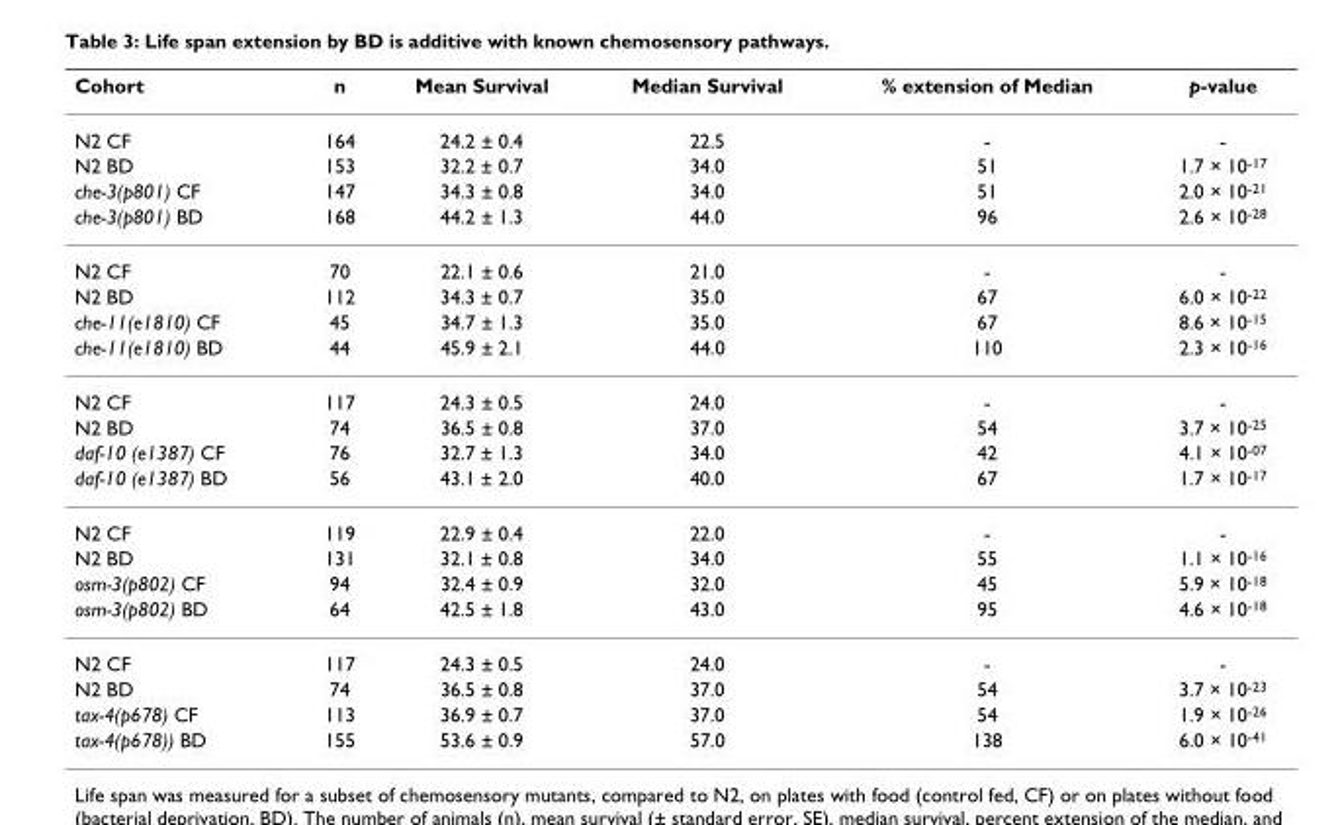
<table><thead><tr><td>Cohort</td><td>n</td><td>Mean Survival</td><td>Median Survival</td><td>% extension of Median</td><td>p-value</td></tr></thead><tbody><tr><td>N2 CF</td><td>164</td><td>24.2 ± 0.4</td><td>22.5</td><td>-</td><td>-</td></tr><tr><td>N2 BD</td><td>153</td><td>32.2 ± 0.7</td><td>34.0</td><td>51</td><td>1.7 × 10<sup>-17</sup></td></tr><tr><td>che-3(p801) CF</td><td>147</td><td>34.3 ± 0.8</td><td>34.0</td><td>51</td><td>2.0 × 10<sup>-21</sup></td></tr><tr><td>che-3(p801) BD</td><td>168</td><td>44.2 ± 1.3</td><td>44.0</td><td>96</td><td>2.6 × 10<sup>-28</sup></td></tr><tr><td>N2 CF</td><td>70</td><td>22.1 ± 0.6</td><td>21.0</td><td>-</td><td>-</td></tr><tr><td>N2 BD</td><td>112</td><td>34.3 ± 0.7</td><td>35.0</td><td>67</td><td>6.0 × 10<sup>-22</sup></td></tr><tr><td>che-11(e1810) CF</td><td>45</td><td>34.7 ± 1.3</td><td>35.0</td><td>67</td><td>8.6 × 10<sup>-15</sup></td></tr><tr><td>che-11(e1810) BD</td><td>44</td><td>45.9 ± 2.1</td><td>44.0</td><td>110</td><td>2.3 × 10<sup>-16</sup></td></tr><tr><td>N2 CF</td><td>117</td><td>24.3 ± 0.5</td><td>24.0</td><td>-</td><td>-</td></tr><tr><td>N2 BD</td><td>74</td><td>36.5 ± 0.8</td><td>37.0</td><td>54</td><td>3.7 × 10<sup>-25</sup></td></tr><tr><td>daf-10 (e1387) CF</td><td>76</td><td>32.7 ± 1.3</td><td>34.0</td><td>42</td><td>4.1 × 10<sup>-07</sup></td></tr><tr><td>daf-10 (e1387) BD</td><td>56</td><td>43.1 ± 2.0</td><td>40.0</td><td>67</td><td>1.7 × 10<sup>-17</sup></td></tr><tr><td>N2 CF</td><td>119</td><td>22.9 ± 0.4</td><td>22.0</td><td>-</td><td>-</td></tr><tr><td>N2 BD</td><td>131</td><td>32.1 ± 0.8</td><td>34.0</td><td>55</td><td>1.1 × 10<sup>-16</sup></td></tr><tr><td>osm-3(p802) CF</td><td>94</td><td>32.4 ± 0.9</td><td>32.0</td><td>45</td><td>5.9 × 10<sup>-18</sup></td></tr><tr><td>osm-3(p802) BD</td><td>64</td><td>42.5 ± 1.8</td><td>43.0</td><td>95</td><td>4.6 × 10<sup>-18</sup></td></tr><tr><td>N2 CF</td><td>117</td><td>24.3 ± 0.5</td><td>24.0</td><td>-</td><td>-</td></tr><tr><td>N2 BD</td><td>74</td><td>36.5 ± 0.8</td><td>37.0</td><td>54</td><td>3.7 × 10<sup>-23</sup></td></tr><tr><td>tax-4(p678) CF</td><td>113</td><td>36.9 ± 0.7</td><td>37.0</td><td>54</td><td>1.9 × 10<sup>-26</sup></td></tr><tr><td>tax-4(p678)) BD</td><td>155</td><td>53.6 ± 0.9</td><td>57.0</td><td>138</td><td>6.0 × 10<sup>-41</sup></td></tr></tbody></table>